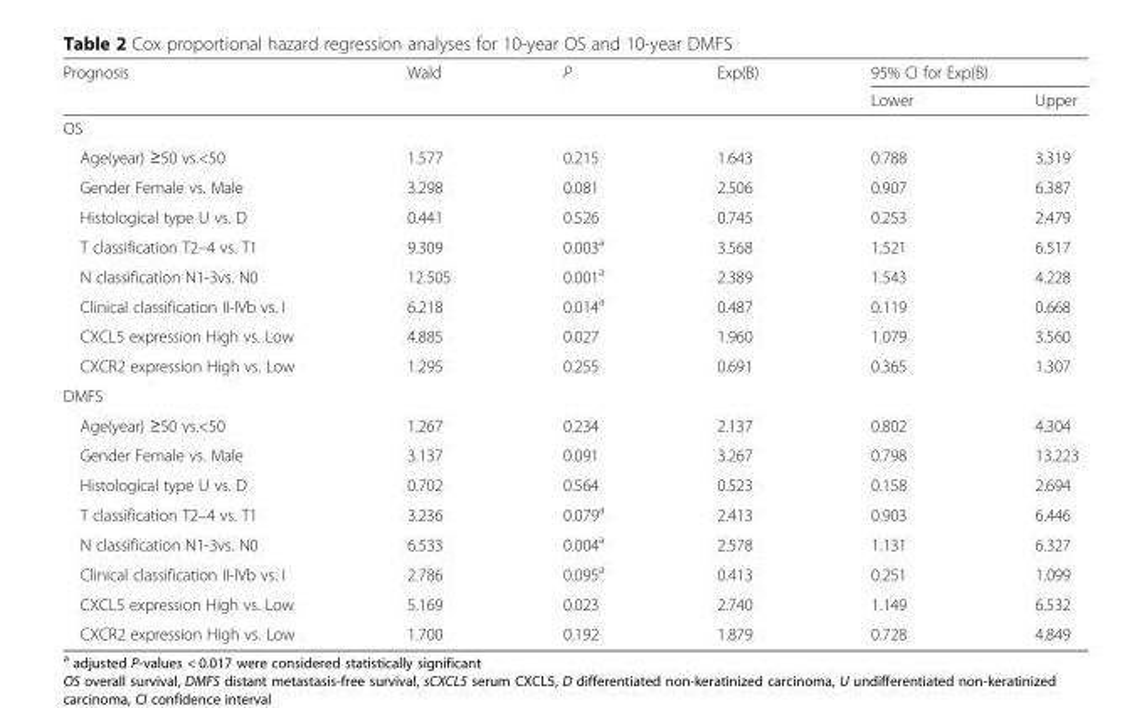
<table><thead><tr><td rowspan="2">Prognosis</td><td rowspan="2">Wald</td><td rowspan="2">P</td><td rowspan="2">Exp(B)</td><td colspan="2">95% CI for Exp(B)</td></tr><tr><td>Lower</td><td>Upper</td></tr></thead><tbody><tr><td colspan="6">OS</td></tr><tr><td>Age(year) ≥50 vs.&lt;50</td><td>1.577</td><td>0.215</td><td>1.643</td><td>0.788</td><td>3.319</td></tr><tr><td>Gender Female vs. Male</td><td>3.298</td><td>0.081</td><td>2.506</td><td>0.907</td><td>6.387</td></tr><tr><td>Histological type U vs. D</td><td>0.441</td><td>0.526</td><td>0.745</td><td>0.253</td><td>2.479</td></tr><tr><td>T classification T2–4 vs. T1</td><td>9.309</td><td>0.003<sup>a</sup></td><td>3.568</td><td>1.521</td><td>6.517</td></tr><tr><td>N classification N1-3vs. N0</td><td>12.505</td><td>0.001<sup>a</sup></td><td>2.389</td><td>1.543</td><td>4.228</td></tr><tr><td>Clinical classification II-IVb vs. I</td><td>6.218</td><td>0.014<sup>a</sup></td><td>0.487</td><td>0.119</td><td>0.668</td></tr><tr><td>CXCL5 expression High vs. Low</td><td>4.885</td><td>0.027</td><td>1.960</td><td>1.079</td><td>3.560</td></tr><tr><td>CXCR2 expression High vs. Low</td><td>1.295</td><td>0.255</td><td>0.691</td><td>0.365</td><td>1.307</td></tr><tr><td colspan="6">DMFS</td></tr><tr><td>Age(year) ≥50 vs.&lt;50</td><td>1.267</td><td>0.234</td><td>2.137</td><td>0.802</td><td>4.304</td></tr><tr><td>Gender Female vs. Male</td><td>3.137</td><td>0.091</td><td>3.267</td><td>0.798</td><td>13.223</td></tr><tr><td>Histological type U vs. D</td><td>0.702</td><td>0.564</td><td>0.523</td><td>0.158</td><td>2.694</td></tr><tr><td>T classification T2–4 vs. T1</td><td>3.236</td><td>0.079<sup>a</sup></td><td>2.413</td><td>0.903</td><td>6.446</td></tr><tr><td>N classification N1-3vs. N0</td><td>6.533</td><td>0.004<sup>a</sup></td><td>2.578</td><td>1.131</td><td>6.327</td></tr><tr><td>Clinical classification II-IVb vs. I</td><td>2.786</td><td>0.095<sup>a</sup></td><td>0.413</td><td>0.251</td><td>1.099</td></tr><tr><td>CXCL5 expression High vs. Low</td><td>5.169</td><td>0.023</td><td>2.740</td><td>1.149</td><td>6.532</td></tr><tr><td>CXCR2 expression High vs. Low</td><td>1.700</td><td>0.192</td><td>1.879</td><td>0.728</td><td>4.849</td></tr></tbody></table>